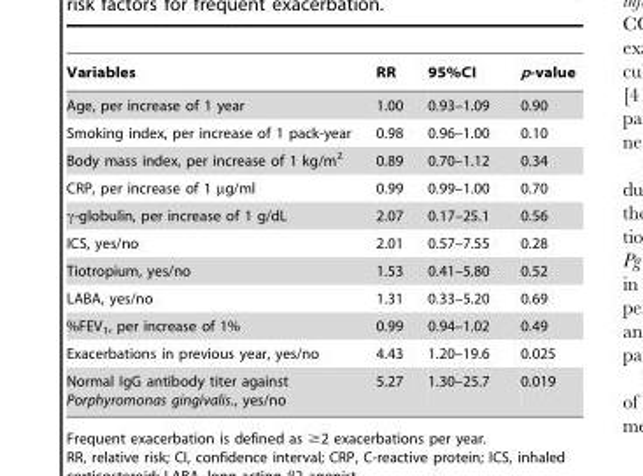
<table><thead><tr><td>Variables</td><td>RR</td><td>95%CI</td><td>p-value</td></tr></thead><tbody><tr><td>Age, per increase of 1 year</td><td>1.00</td><td>0.93–1.09</td><td>0.90</td></tr><tr><td>Smoking index, per increase of 1 pack-year</td><td>0.98</td><td>0.96–1.00</td><td>0.10</td></tr><tr><td>Body mass index, per increase of 1 kg/m<sup>2</sup></td><td>0.89</td><td>0.70–1.12</td><td>0.34</td></tr><tr><td>CRP, per increase of 1 µg/ml</td><td>0.99</td><td>0.99–1.00</td><td>0.70</td></tr><tr><td>γ-globulin, per increase of 1 g/dL</td><td>2.07</td><td>0.17–25.1</td><td>0.56</td></tr><tr><td>ICS, yes/no</td><td>2.01</td><td>0.57–7.55</td><td>0.28</td></tr><tr><td>Tiotropium, yes/no</td><td>1.53</td><td>0.41–5.80</td><td>0.52</td></tr><tr><td>LABA, yes/no</td><td>1.31</td><td>0.33–5.20</td><td>0.69</td></tr><tr><td>%FEV<sub>1</sub>, per increase of 1%</td><td>0.99</td><td>0.94–1.02</td><td>0.49</td></tr><tr><td>Exacerbations in previous year, yes/no</td><td>4.43</td><td>1.20–19.6</td><td>0.025</td></tr><tr><td>Normal IgG antibody titer against Porphyromonas gingivalis., yes/no</td><td>5.27</td><td>1.30–25.7</td><td>0.019</td></tr></tbody></table>